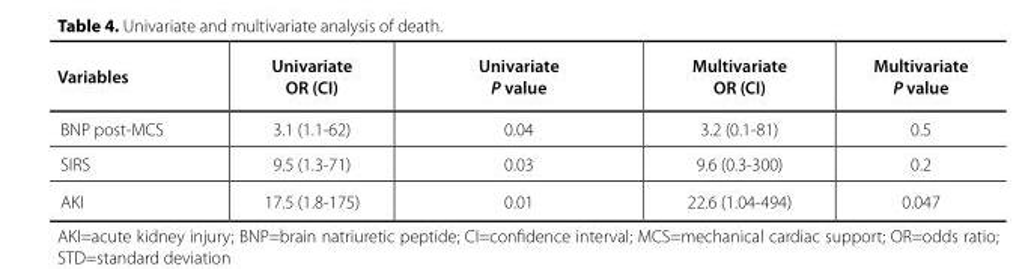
<table><thead><tr><td>Variables</td><td>Univariate OR (CI)</td><td>Univariate P value</td><td>Multivariate OR (CI)</td><td>Multivariate P value</td></tr></thead><tbody><tr><td>BNP post-MCS</td><td>3.1 (1.1-62)</td><td>0.04</td><td>3.2 (0.1-81)</td><td>0.5</td></tr><tr><td>SIRS</td><td>9.5 (1.3-71)</td><td>0.03</td><td>9.6 (0.3-300)</td><td>0.2</td></tr><tr><td>AKI</td><td>17.5 (1.8-175)</td><td>0.01</td><td>22.6 (1.04-494)</td><td>0.047</td></tr></tbody></table>